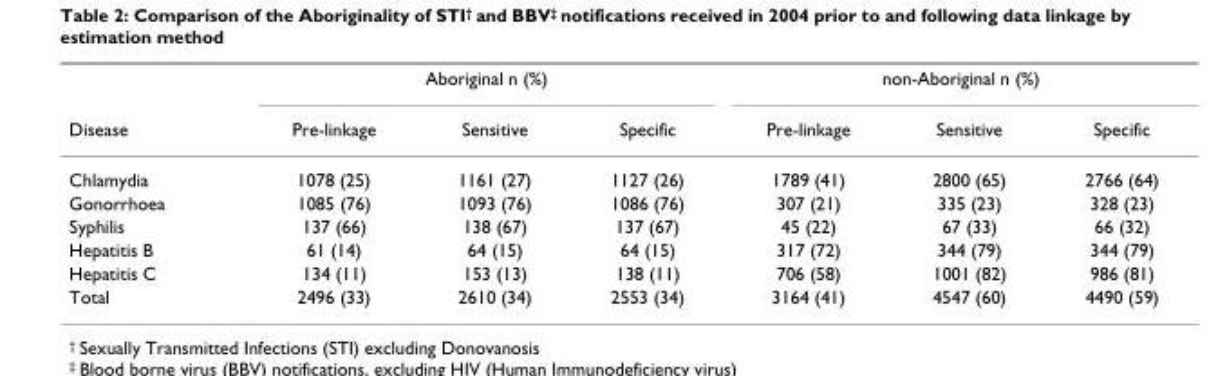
<table><thead><tr><td rowspan="2">Disease</td><td colspan="3">Aboriginal n (%)</td><td colspan="3">non-Aboriginal n (%)</td></tr><tr><td>Pre-linkage</td><td>Sensitive</td><td>Specific</td><td>Pre-linkage</td><td>Sensitive</td><td>Specific</td></tr></thead><tbody><tr><td>Chlamydia</td><td>1078 (25)</td><td>1161 (27)</td><td>1127 (26)</td><td>1789 (41)</td><td>2800 (65)</td><td>2766 (64)</td></tr><tr><td>Gonorrhoea</td><td>1085 (76)</td><td>1093 (76)</td><td>1086 (76)</td><td>307 (21)</td><td>335 (23)</td><td>328 (23)</td></tr><tr><td>Syphilis</td><td>137 (66)</td><td>138 (67)</td><td>137 (67)</td><td>45 (22)</td><td>67 (33)</td><td>66 (32)</td></tr><tr><td>Hepatitis B</td><td>61 (14)</td><td>64 (15)</td><td>64 (15)</td><td>317 (72)</td><td>344 (79)</td><td>344 (79)</td></tr><tr><td>Hepatitis C</td><td>134 (11)</td><td>153 (13)</td><td>138 (11)</td><td>706 (58)</td><td>1001 (82)</td><td>986 (81)</td></tr><tr><td>Total</td><td>2496 (33)</td><td>2610 (34)</td><td>2553 (34)</td><td>3164 (41)</td><td>4547 (60)</td><td>4490 (59)</td></tr></tbody></table>